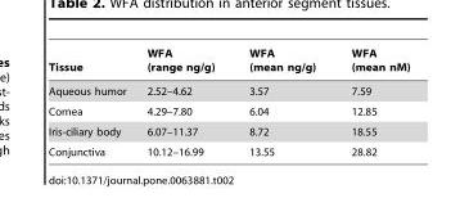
<table><thead><tr><td>Tissue</td><td>WFA (range ng/g)</td><td>WFA (mean ng/g)</td><td>WFA (mean nM)</td></tr></thead><tbody><tr><td>Aqueous humor</td><td>2.52–4.62</td><td>3.57</td><td>7.59</td></tr><tr><td>Cornea</td><td>4.29–7.80</td><td>6.04</td><td>12.85</td></tr><tr><td>Iris-ciliary body</td><td>6.07–11.37</td><td>8.72</td><td>18.55</td></tr><tr><td>Conjunctiva</td><td>10.12–16.99</td><td>13.55</td><td>28.82</td></tr></tbody></table>